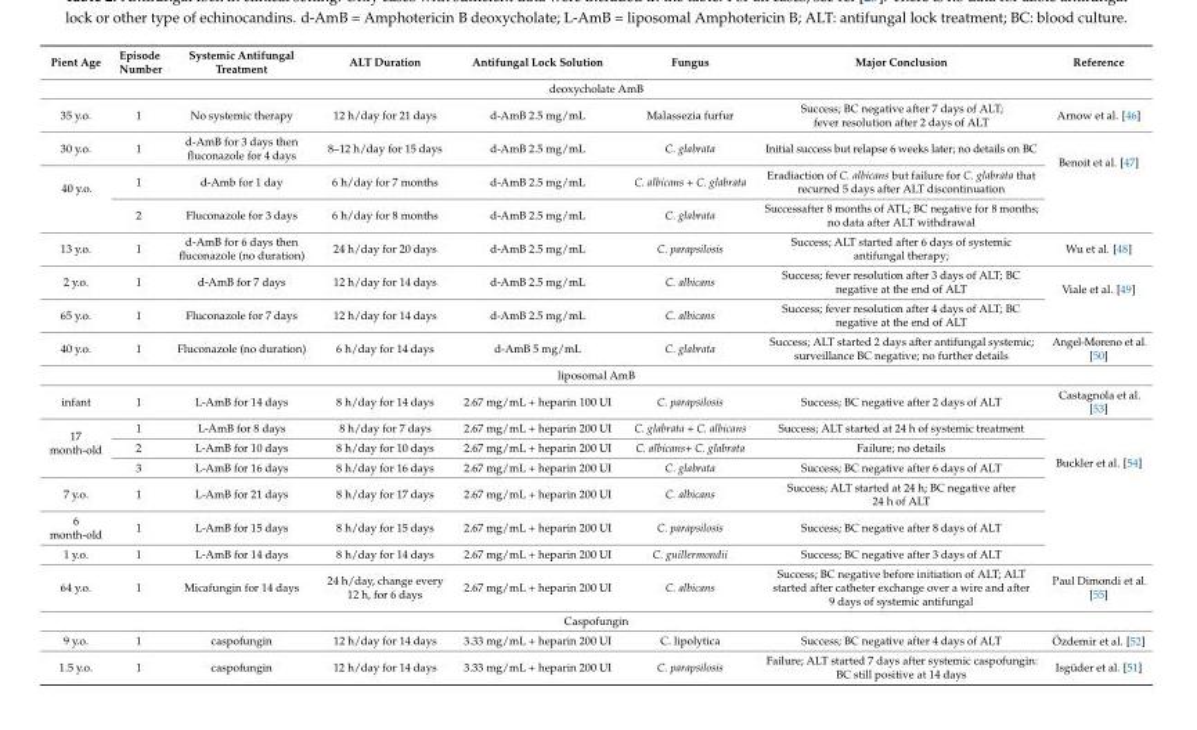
<table><thead><tr><td>Pient Age</td><td>Episode Number</td><td>Systemic Antifungal Treatment</td><td>ALT Duration</td><td>Antifungal Lock Solution</td><td>Fungus</td><td>Major Conclusion</td><td>Reference</td></tr></thead><tbody><tr><td colspan="8">deoxycholate AmB</td></tr><tr><td>35 y.o.</td><td>1</td><td>No systemic therapy</td><td>12 h/day for 21 days</td><td>d-AmB 2.5 mg/mL</td><td>Malassezia furfur</td><td>Success; BC negative after 7 days of ALT; fever resolution after 2 days of ALT</td><td>Arnow et al. [46]</td></tr><tr><td>30 y.o.</td><td>1</td><td>d-AmB for 3 days then fluconazole for 4 days</td><td>8–12 h/day for 15 days</td><td>d-AmB 2.5 mg/mL</td><td>C. glabrata</td><td>Initial success but relapse 6 weeks later; no details on BC</td><td rowspan="3">Benoit et al. [47]</td></tr><tr><td rowspan="2">40 y.o.</td><td>1</td><td>d-Amb for 1 day</td><td>6 h/day for 7 months</td><td>d-AmB 2.5 mg/mL</td><td>C. albicans + C. glabrata</td><td>Eradiaction of C. albicans but failure for C. glabrata that recurred 5 days after ALT discontinuation</td></tr><tr><td>2</td><td>Fluconazole for 3 days</td><td>6 h/day for 8 months</td><td>d-AmB 2.5 mg/mL</td><td>C. glabrata</td><td>Successafter 8 months of ATL; BC negative for 8 months; no data after ALT withdrawal</td></tr><tr><td>13 y.o.</td><td>1</td><td>d-AmB for 6 days then fluconazole (no duration)</td><td>24 h/day for 20 days</td><td>d-AmB 2.5 mg/mL</td><td>C. parapsilosis</td><td>Success; ALT started after 6 days of systemic antifungal therapy;</td><td>Wu et al. [48]</td></tr><tr><td>2 y.o.</td><td>1</td><td>d-AmB for 7 days</td><td>12 h/day for 14 days</td><td>d-AmB 2.5 mg/mL</td><td>C. albicans</td><td>Success; fever resolution after 3 days of ALT; BC negative at the end of ALT</td><td rowspan="2">Viale et al. [49]</td></tr><tr><td>65 y.o.</td><td>1</td><td>Fluconazole for 7 days</td><td>12 h/day for 14 days</td><td>d-AmB 2.5 mg/mL</td><td>C. albicans</td><td>Success; fever resolution after 4 days of ALT; BC negative at the end of ALT</td></tr><tr><td>40 y.o.</td><td>1</td><td>Fluconazole (no duration)</td><td>6 h/day for 14 days</td><td>d-AmB 5 mg/mL</td><td>C. glabrata</td><td>Success; ALT started 2 days after antifungal systemic; surveillance BC negative; no further details</td><td>Angel-Moreno et al. [50]</td></tr><tr><td colspan="8">liposomal AmB</td></tr><tr><td>infant</td><td>1</td><td>L-AmB for 14 days</td><td>8 h/day for 14 days</td><td>2.67 mg/mL + heparin 100 UI</td><td>C. parapsilosis</td><td>Success; BC negative after 2 days of ALT</td><td>Castagnola et al. [53]</td></tr><tr><td rowspan="3">17 month-old</td><td>1</td><td>L-AmB for 8 days</td><td>8 h/day for 7 days</td><td>2.67 mg/mL + heparin 200 UI</td><td>C. glabrata + C. albicans</td><td>Success; ALT started at 24 h of systemic treatment</td><td rowspan="6">Buckler et al. [54]</td></tr><tr><td>2</td><td>L-AmB for 10 days</td><td>8 h/day for 10 days</td><td>2.67 mg/mL + heparin 200 UI</td><td>C. albicans+ C. glabrata</td><td>Failure; no details</td></tr><tr><td>3</td><td>L-AmB for 16 days</td><td>8 h/day for 16 days</td><td>2.67 mg/mL + heparin 200 UI</td><td>C. glabrata</td><td>Success; BC negative after 6 days of ALT</td></tr><tr><td>7 y.o.</td><td>1</td><td>L-AmB for 21 days</td><td>8 h/day for 17 days</td><td>2.67 mg/mL + heparin 200 UI</td><td>C. albicans</td><td>Success; ALT started at 24 h; BC negative after 24 h of ALT</td></tr><tr><td>6 month-old</td><td>1</td><td>L-AmB for 15 days</td><td>8 h/day for 15 days</td><td>2.67 mg/mL + heparin 200 UI</td><td>C. parapsilosis</td><td>Success; BC negative after 8 days of ALT</td></tr><tr><td>1 y.o.</td><td>1</td><td>L-AmB for 14 days</td><td>8 h/day for 14 days</td><td>2.67 mg/mL + heparin 200 UI</td><td>C. guillermondii</td><td>Success; BC negative after 3 days of ALT</td></tr><tr><td>64 y.o.</td><td>1</td><td>Micafungin for 14 days</td><td>24 h/day, change every 12 h, for 6 days</td><td>2.67 mg/mL + heparin 200 UI</td><td>C. albicans</td><td>Success; BC negative before initiation of ALT; ALT started after catheter exchange over a wire and after 9 days of systemic antifungal</td><td>Paul Dimondi et al. [55]</td></tr><tr><td colspan="8">Caspofungin</td></tr><tr><td>9 y.o.</td><td>1</td><td>caspofungin</td><td>12 h/day for 14 days</td><td>3.33 mg/mL + heparin 200 UI</td><td>C. lipolytica</td><td>Success; BC negative after 4 days of ALT</td><td>Özdemir et al. [52]</td></tr><tr><td>1.5 y.o.</td><td>1</td><td>caspofungin</td><td>12 h/day for 14 days</td><td>3.33 mg/mL + heparin 200 UI</td><td>C. parapsilosis</td><td>Failure; ALT started 7 days after systemic caspofungin: BC still positive at 14 days</td><td>Isgüder et al. [51]</td></tr></tbody></table>